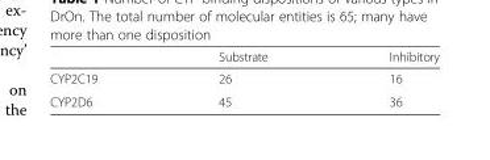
<table><thead><tr><td></td><td>Substrate</td><td>Inhibitory</td></tr></thead><tbody><tr><td>CYP2C19</td><td>26</td><td>16</td></tr><tr><td>CYP2D6</td><td>45</td><td>36</td></tr></tbody></table>